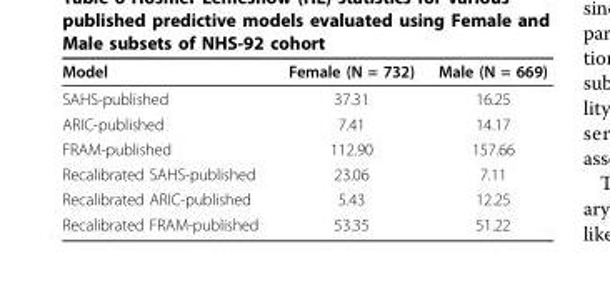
<table><thead><tr><td>Model</td><td>Female (N = 732)</td><td>Male (N = 669)</td></tr></thead><tbody><tr><td>SAHS-published</td><td>37.31</td><td>16.25</td></tr><tr><td>ARIC-published</td><td>7.41</td><td>14.17</td></tr><tr><td>FRAM-published</td><td>112.90</td><td>157.66</td></tr><tr><td>Recalibrated SAHS-published</td><td>23.06</td><td>7.11</td></tr><tr><td>Recalibrated ARIC-published</td><td>5.43</td><td>12.25</td></tr><tr><td>Recalibrated FRAM-published</td><td>53.35</td><td>51.22</td></tr></tbody></table>